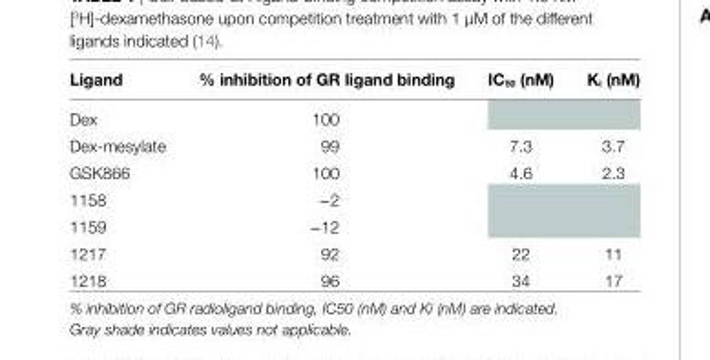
<table><thead><tr><td>ligand</td><td>% inhibition of gr ligand binding</td><td>ic<sub>50</sub> (nM)</td><td>K<sub>i</sub> (nM)</td></tr></thead><tbody><tr><td>Dex</td><td>100</td><td colspan="2"></td></tr><tr><td>Dex-mesylate</td><td>99</td><td>7.3</td><td>3.7</td></tr><tr><td>GSK866</td><td>100</td><td>4.6</td><td>2.3</td></tr><tr><td>1158</td><td>−2</td><td colspan="2"></td></tr><tr><td>1159</td><td>−12</td><td colspan="2"></td></tr><tr><td>1217</td><td>92</td><td>22</td><td>11</td></tr><tr><td>1218</td><td>96</td><td>34</td><td>17</td></tr></tbody></table>